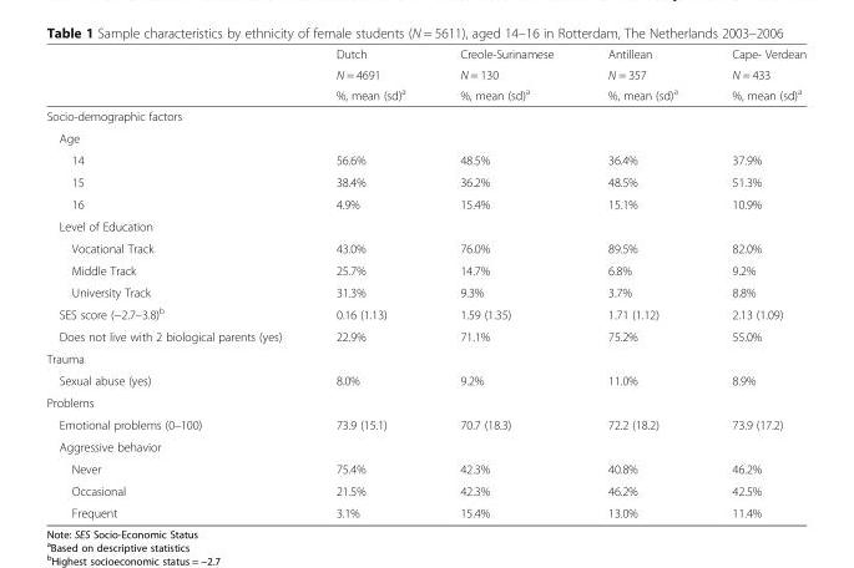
<table><thead><tr><td rowspan="3"></td><td rowspan="3">Dutch N = 4691 %, mean (sd)<sup>a</sup></td><td rowspan="3">Creole-Surinamese N = 130 %, mean (sd)<sup>a</sup></td><td rowspan="3">Antillean N = 357 %, mean (sd)<sup>a</sup></td><td rowspan="3">Cape- Verdean N = 433 %, mean (sd)<sup>a</sup></td></tr><tr></tr><tr></tr></thead><tbody><tr><td colspan="5">Socio-demographic factors</td></tr><tr><td colspan="5">Age</td></tr><tr><td>14</td><td>56.6%</td><td>48.5%</td><td>36.4%</td><td>37.9%</td></tr><tr><td>15</td><td>38.4%</td><td>36.2%</td><td>48.5%</td><td>51.3%</td></tr><tr><td>16</td><td>4.9%</td><td>15.4%</td><td>15.1%</td><td>10.9%</td></tr><tr><td colspan="5">Level of Education</td></tr><tr><td>Vocational Track</td><td>43.0%</td><td>76.0%</td><td>89.5%</td><td>82.0%</td></tr><tr><td>Middle Track</td><td>25.7%</td><td>14.7%</td><td>6.8%</td><td>9.2%</td></tr><tr><td>University Track</td><td>31.3%</td><td>9.3%</td><td>3.7%</td><td>8.8%</td></tr><tr><td>SES score (−2.7–3.8)<sup>b</sup></td><td>0.16 (1.13)</td><td>1.59 (1.35)</td><td>1.71 (1.12)</td><td>2.13 (1.09)</td></tr><tr><td>Does not live with 2 biological parents (yes)</td><td>22.9%</td><td>71.1%</td><td>75.2%</td><td>55.0%</td></tr><tr><td colspan="5">Trauma</td></tr><tr><td>Sexual abuse (yes)</td><td>8.0%</td><td>9.2%</td><td>11.0%</td><td>8.9%</td></tr><tr><td colspan="5">Problems</td></tr><tr><td>Emotional problems (0–100)</td><td>73.9 (15.1)</td><td>70.7 (18.3)</td><td>72.2 (18.2)</td><td>73.9 (17.2)</td></tr><tr><td colspan="5">Aggressive behavior</td></tr><tr><td>Never</td><td>75.4%</td><td>42.3%</td><td>40.8%</td><td>46.2%</td></tr><tr><td>Occasional</td><td>21.5%</td><td>42.3%</td><td>46.2%</td><td>42.5%</td></tr><tr><td>Frequent</td><td>3.1%</td><td>15.4%</td><td>13.0%</td><td>11.4%</td></tr></tbody></table>